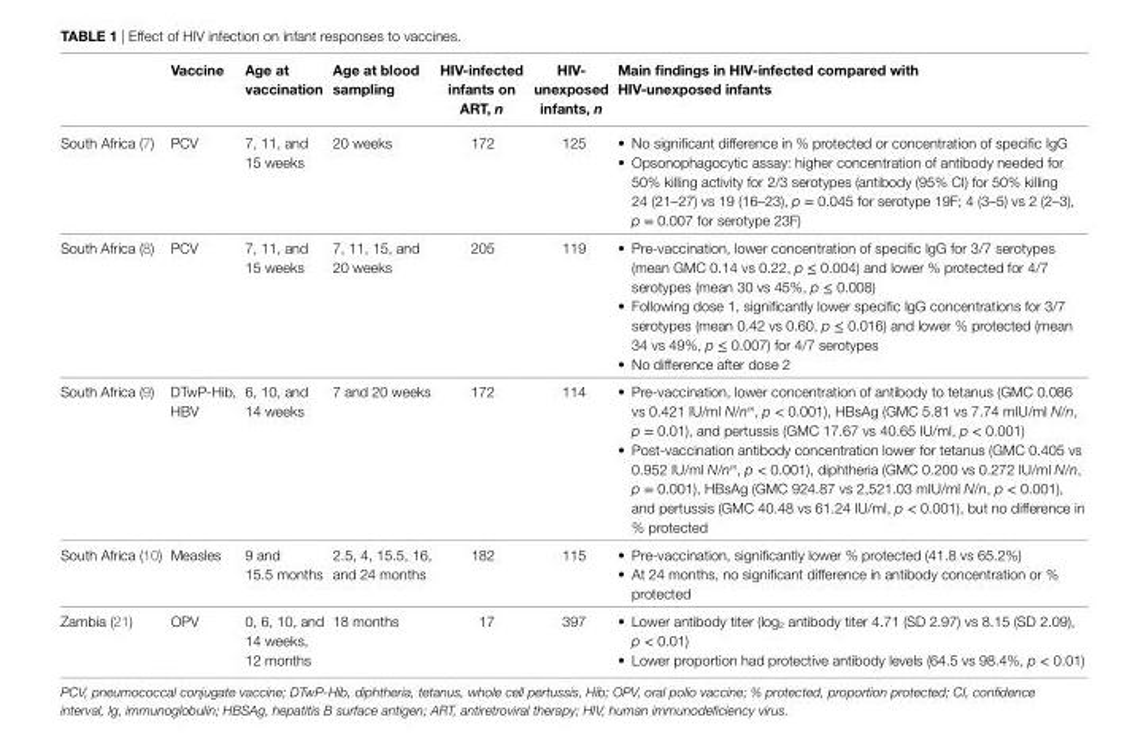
<table><thead><tr><td></td><td>vaccine</td><td>Age at vaccination</td><td>Age at blood sampling</td><td>Hiv-infected infants on ART, n</td><td>Hiv- unexposed infants, n</td><td>Main findings in Hiv-infected compared with Hiv-unexposed infants</td></tr></thead><tbody><tr><td>South Africa (7)</td><td>PCV</td><td>7, 11, and 15 weeks</td><td>20 weeks</td><td>172</td><td>125</td><td>• No significant difference in % protected or concentration of specific IgG • Opsonophagocytic assay: higher concentration of antibody needed for 50% killing activity for 2/3 serotypes (antibody (95% CI) for 50% killing 24 (21–27) vs 19 (16–23), p = 0.045 for serotype 19F; 4 (3–5) vs 2 (2–3), p = 0.007 for serotype 23F)</td></tr><tr><td>South Africa (8)</td><td>PCV</td><td>7, 11, and 15 weeks</td><td>7, 11, 15, and 20 weeks</td><td>205</td><td>119</td><td>• Pre-vaccination, lower concentration of specific IgG for 3/7 serotypes (mean GMC 0.14 vs 0.22, p ≤ 0.004) and lower % protected for 4/7 serotypes (mean 30 vs 45%, p ≤ 0.008) • Following dose 1, significantly lower specific IgG concentrations for 3/7 serotypes (mean 0.42 vs 0.60, p ≤ 0.016) and lower % protected (mean 34 vs 49%, p ≤ 0.007) for 4/7 serotypes • No difference after dose 2</td></tr><tr><td>South Africa (9)</td><td>DTwP-Hib, HBV</td><td>6, 10, and 14 weeks</td><td>7 and 20 weeks</td><td>172</td><td>114</td><td>• Pre-vaccination, lower concentration of antibody to tetanus (GMC 0.086 vs 0.421 IU/ml N/nm, p &lt; 0.001), HBsAg (GMC 5.81 vs 7.74 mIU/ml N/n, p = 0.01), and pertussis (GMC 17.67 vs 40.65 IU/ml, p &lt; 0.001) • Post-vaccination antibody concentration lower for tetanus (GMC 0.405 vs 0.952 IU/ml N/nm, p &lt; 0.001), diphtheria (GMC 0.200 vs 0.272 IU/ml N/n, p = 0.001), HBsAg (GMC 924.87 vs 2,521.03 mIU/ml N/n, p &lt; 0.001), and pertussis (GMC 40.48 vs 61.24 IU/ml, p &lt; 0.001), but no difference in % protected</td></tr><tr><td>South Africa (10)</td><td>Measles</td><td>9 and 15.5 months</td><td>2.5, 4, 15.5, 16, and 24 months</td><td>182</td><td>115</td><td>• Pre-vaccination, significantly lower % protected (41.8 vs 65.2%) • At 24 months, no significant difference in antibody concentration or % protected</td></tr><tr><td>Zambia (21)</td><td>OPV</td><td>0, 6, 10, and 14 weeks, 12 months</td><td>18 months</td><td>17</td><td>397</td><td>• Lower antibody titer (log2 antibody titer 4.71 (SD 2.97) vs 8.15 (SD 2.09), p &lt; 0.01) • Lower proportion had protective antibody levels (64.5 vs 98.4%, p &lt; 0.01)</td></tr></tbody></table>